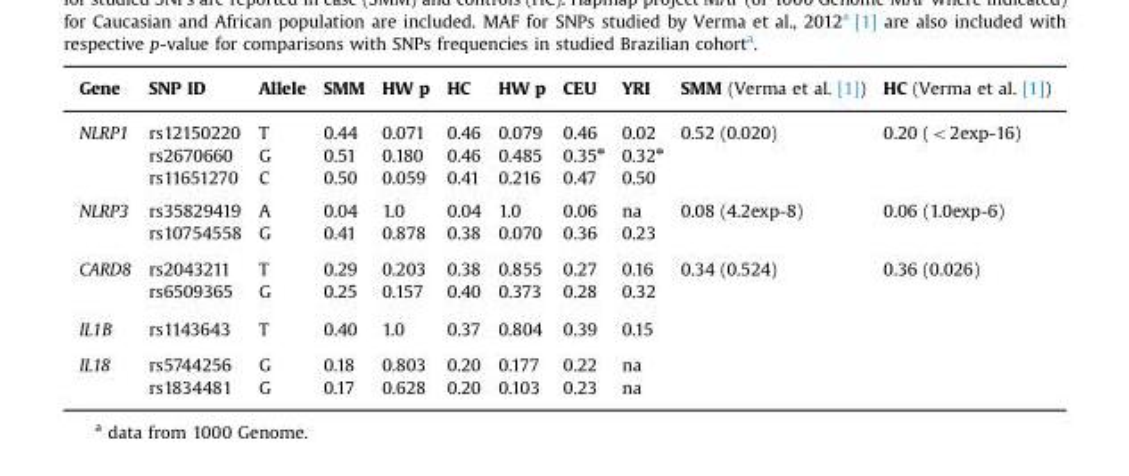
<table><thead><tr><td>Gene</td><td>SNP ID</td><td>Allele</td><td>SMM</td><td>HW p</td><td>HC</td><td>HW p</td><td>CEU</td><td>YRI</td><td>SMM (Verma et al. [1])</td><td>HC (Verma et al. [1])</td></tr></thead><tbody><tr><td rowspan="3">NLRP1</td><td>rs12150220</td><td>T</td><td>0.44</td><td>0.071</td><td>0.46</td><td>0.079</td><td>0.46</td><td>0.02</td><td>0.52 (0.020)</td><td>0.20 (&lt;2exp-16)</td></tr><tr><td>rs2670660</td><td>G</td><td>0.51</td><td>0.180</td><td>0.46</td><td>0.485</td><td>0.35<sup>⁎</sup></td><td>0.32<sup>⁎</sup></td><td></td><td></td></tr><tr><td>rs11651270</td><td>C</td><td>0.50</td><td>0.059</td><td>0.41</td><td>0.216</td><td>0.47</td><td>0.50</td><td></td><td></td></tr><tr><td rowspan="2">NLRP3</td><td>rs35829419</td><td>A</td><td>0.04</td><td>1.0</td><td>0.04</td><td>1.0</td><td>0.06</td><td>na</td><td>0.08 (4.2exp-8)</td><td>0.06 (1.0exp-6)</td></tr><tr><td>rs10754558</td><td>G</td><td>0.41</td><td>0.878</td><td>0.38</td><td>0.070</td><td>0.36</td><td>0.23</td><td></td><td></td></tr><tr><td rowspan="2">CARD8</td><td>rs2043211</td><td>T</td><td>0.29</td><td>0.203</td><td>0.38</td><td>0.855</td><td>0.27</td><td>0.16</td><td>0.34 (0.524)</td><td>0.36 (0.026)</td></tr><tr><td>rs6509365</td><td>G</td><td>0.25</td><td>0.157</td><td>0.40</td><td>0.373</td><td>0.28</td><td>0.32</td><td></td><td></td></tr><tr><td>IL1B</td><td>rs1143643</td><td>T</td><td>0.40</td><td>1.0</td><td>0.37</td><td>0.804</td><td>0.39</td><td>0.15</td><td></td><td></td></tr><tr><td rowspan="2">IL18</td><td>rs5744256</td><td>G</td><td>0.18</td><td>0.803</td><td>0.20</td><td>0.177</td><td>0.22</td><td>na</td><td></td><td></td></tr><tr><td>rs1834481</td><td>G</td><td>0.17</td><td>0.628</td><td>0.20</td><td>0.103</td><td>0.23</td><td>na</td><td></td><td></td></tr></tbody></table>